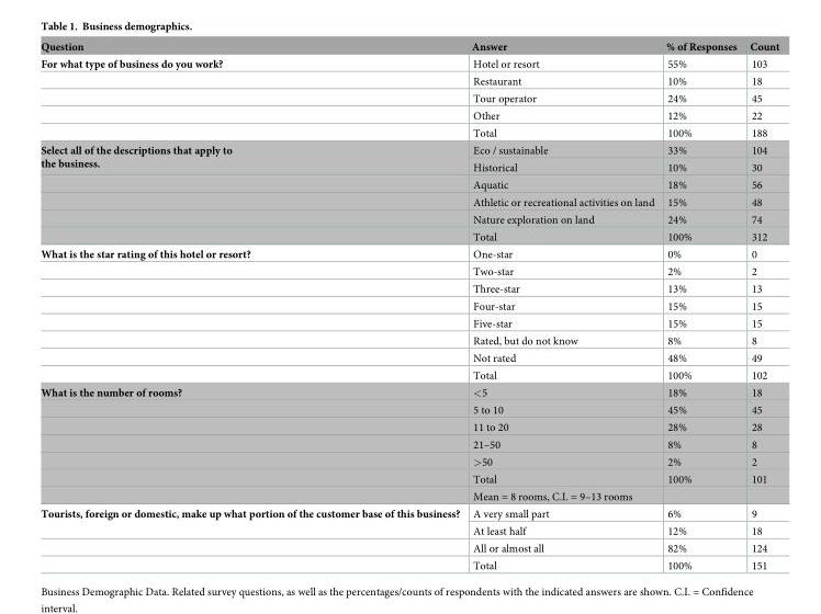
<table><thead><tr><td>Question</td><td>Answer</td><td>% of Responses</td><td>Count</td></tr></thead><tbody><tr><td rowspan="5">For what type of business do you work?</td><td>Hotel or resort</td><td>55%</td><td>103</td></tr><tr><td>Restaurant</td><td>10%</td><td>18</td></tr><tr><td>Tour operator</td><td>24%</td><td>45</td></tr><tr><td>Other</td><td>12%</td><td>22</td></tr><tr><td>Total</td><td>100%</td><td>188</td></tr><tr><td rowspan="6">Select all of the descriptions that apply to the business.</td><td>Eco / sustainable</td><td>33%</td><td>104</td></tr><tr><td>Historical</td><td>10%</td><td>30</td></tr><tr><td>Aquatic</td><td>18%</td><td>56</td></tr><tr><td>Athletic or recreational activities on land</td><td>15%</td><td>48</td></tr><tr><td>Nature exploration on land</td><td>24%</td><td>74</td></tr><tr><td>Total</td><td>100%</td><td>312</td></tr><tr><td rowspan="8">What is the star rating of this hotel or resort?</td><td>One-star</td><td>0%</td><td>0</td></tr><tr><td>Two-star</td><td>2%</td><td>2</td></tr><tr><td>Three-star</td><td>13%</td><td>13</td></tr><tr><td>Four-star</td><td>15%</td><td>15</td></tr><tr><td>Five-star</td><td>15%</td><td>15</td></tr><tr><td>Rated, but do not know</td><td>8%</td><td>8</td></tr><tr><td>Not rated</td><td>48%</td><td>49</td></tr><tr><td>Total</td><td>100%</td><td>102</td></tr><tr><td rowspan="7">What is the number of rooms?</td><td>&lt;5</td><td>18%</td><td>18</td></tr><tr><td>5 to 10</td><td>45%</td><td>45</td></tr><tr><td>11 to 20</td><td>28%</td><td>28</td></tr><tr><td>21–50</td><td>8%</td><td>8</td></tr><tr><td>&gt;50</td><td>2%</td><td>2</td></tr><tr><td>Total</td><td>100%</td><td>101</td></tr><tr><td>Mean = 8 rooms, C.I. = 9–13 rooms</td><td></td><td></td></tr><tr><td rowspan="4">Tourists, foreign or domestic, make up what portion of the customer base of this business?</td><td>A very small part</td><td>6%</td><td>9</td></tr><tr><td>At least half</td><td>12%</td><td>18</td></tr><tr><td>All or almost all</td><td>82%</td><td>124</td></tr><tr><td>Total</td><td>100%</td><td>151</td></tr></tbody></table>